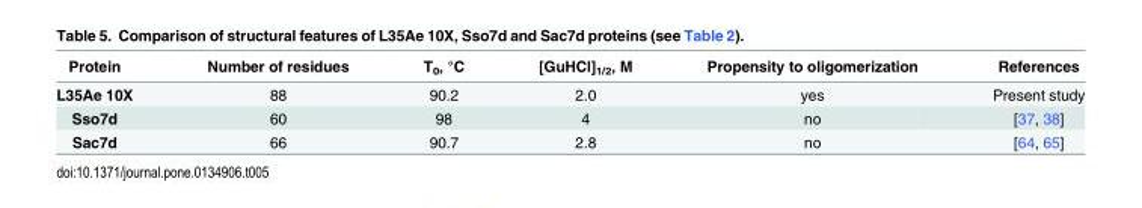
<table><thead><tr><td>Protein</td><td>Number of residues</td><td>T<sub>0</sub>, °C</td><td>[GuHCl]<sub>1/2</sub>, M</td><td>Propensity to oligomerization</td><td>References</td></tr></thead><tbody><tr><td>L35Ae 10X</td><td>88</td><td>90.2</td><td>2.0</td><td>yes</td><td>Present study</td></tr><tr><td>Sso7d</td><td>60</td><td>98</td><td>4</td><td>no</td><td>[37, 38]</td></tr><tr><td>Sac7d</td><td>66</td><td>90.7</td><td>2.8</td><td>no</td><td>[64, 65]</td></tr></tbody></table>